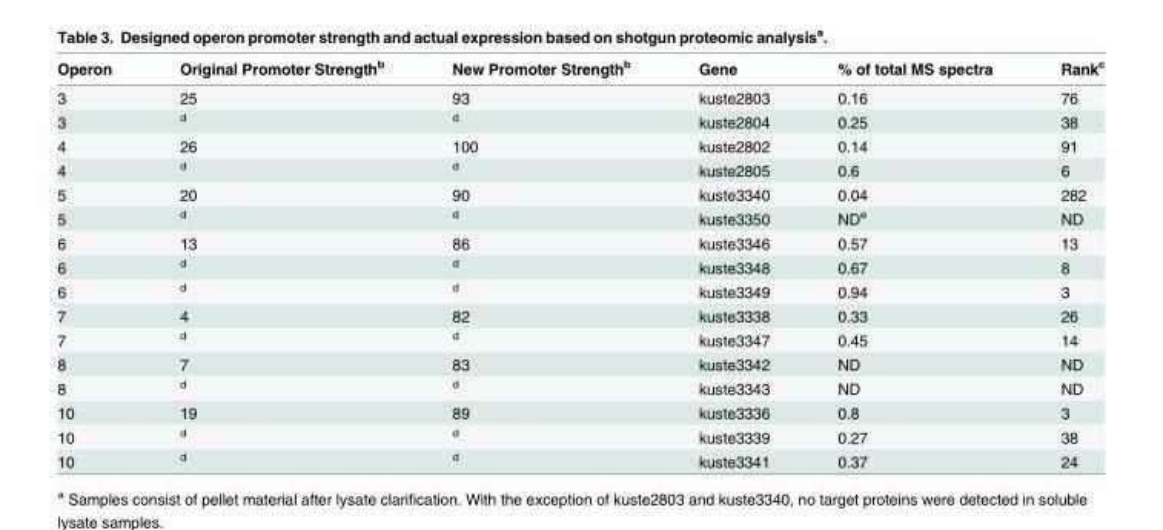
<table><thead><tr><td>Operon</td><td>Original Promoter Strength<sup>b</sup></td><td>New Promoter Strength<sup>b</sup></td><td>Gene</td><td>% of total MS spectra</td><td>Rank<sup>c</sup></td></tr></thead><tbody><tr><td>3</td><td>25</td><td>93</td><td>kuste2803</td><td>0.16</td><td>76</td></tr><tr><td>3</td><td><sup>d</sup></td><td><sup>d</sup></td><td>kuste2804</td><td>0.25</td><td>38</td></tr><tr><td>4</td><td>26</td><td>100</td><td>kuste2802</td><td>0.14</td><td>91</td></tr><tr><td>4</td><td><sup>d</sup></td><td><sup>d</sup></td><td>kuste2805</td><td>0.6</td><td>6</td></tr><tr><td>5</td><td>20</td><td>90</td><td>kuste3340</td><td>0.04</td><td>282</td></tr><tr><td>5</td><td><sup>d</sup></td><td><sup>d</sup></td><td>kuste3350</td><td>ND<sup>e</sup></td><td>ND</td></tr><tr><td>6</td><td>13</td><td>86</td><td>kuste3346</td><td>0.57</td><td>13</td></tr><tr><td>6</td><td><sup>d</sup></td><td><sup>d</sup></td><td>kuste3348</td><td>0.67</td><td>8</td></tr><tr><td>6</td><td><sup>d</sup></td><td><sup>d</sup></td><td>kuste3349</td><td>0.94</td><td>3</td></tr><tr><td>7</td><td>4</td><td>82</td><td>kuste3338</td><td>0.33</td><td>26</td></tr><tr><td>7</td><td><sup>d</sup></td><td><sup>d</sup></td><td>kuste3347</td><td>0.45</td><td>14</td></tr><tr><td>8</td><td>7</td><td>83</td><td>kuste3342</td><td>ND</td><td>ND</td></tr><tr><td>8</td><td><sup>d</sup></td><td><sup>d</sup></td><td>kuste3343</td><td>ND</td><td>ND</td></tr><tr><td>10</td><td>19</td><td>89</td><td>kuste3336</td><td>0.8</td><td>3</td></tr><tr><td>10</td><td><sup>d</sup></td><td><sup>d</sup></td><td>kuste3339</td><td>0.27</td><td>38</td></tr><tr><td>10</td><td><sup>d</sup></td><td><sup>d</sup></td><td>kuste3341</td><td>0.37</td><td>24</td></tr></tbody></table>